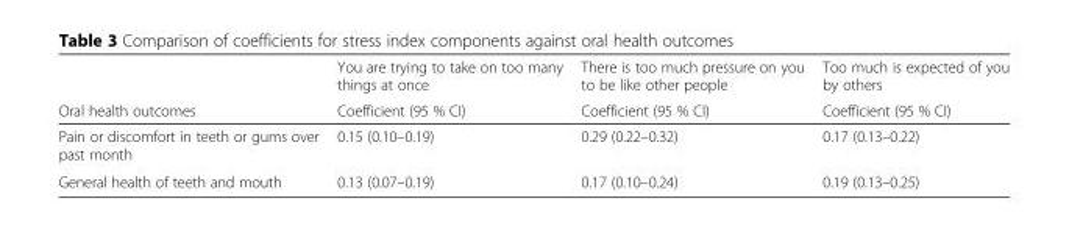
<table><thead><tr><td rowspan="2">Oral health outcomes</td><td rowspan="2">You are trying to take on too many things at once Coefficient (95 % CI)</td><td rowspan="2">There is too much pressure on you to be like other people Coefficient (95 % CI)</td><td rowspan="2">Too much is expected of you by others Coefficient (95 % CI)</td></tr><tr></tr></thead><tbody><tr><td>Pain or discomfort in teeth or gums over past month</td><td>0.15 (0.10–0.19)</td><td>0.29 (0.22–0.32)</td><td>0.17 (0.13–0.22)</td></tr><tr><td>General health of teeth and mouth</td><td>0.13 (0.07–0.19)</td><td>0.17 (0.10–0.24)</td><td>0.19 (0.13–0.25)</td></tr></tbody></table>